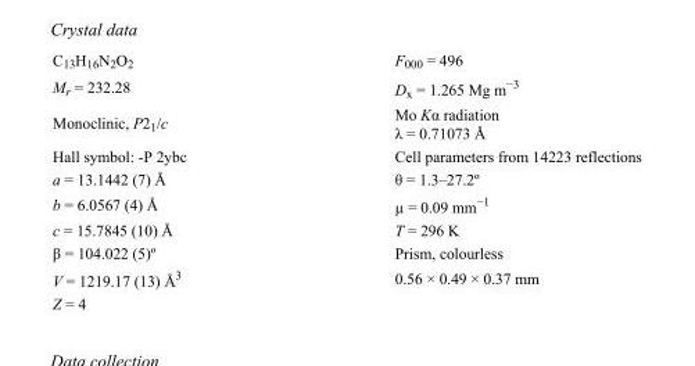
<table><tbody><tr><td>C<sub>13</sub>H<sub>16</sub>N<sub>2</sub>O<sub>2</sub></td><td>F<sub>000</sub> = 496</td></tr><tr><td>M<sub>r</sub> = 232.28</td><td>D<sub>x</sub> = 1.265 Mg m<sup>−3</sup></td></tr><tr><td>Monoclinic, P2<sub>1</sub>/c</td><td>Mo Kα radiation λ = 0.71073 Å</td></tr><tr><td>Hall symbol: -P 2ybc</td><td>Cell parameters from 14223 reflections</td></tr><tr><td>a = 13.1442 (7) Å</td><td>θ = 1.3–27.2º</td></tr><tr><td>b = 6.0567 (4) Å</td><td>µ = 0.09 mm<sup>−1</sup></td></tr><tr><td>c = 15.7845 (10) Å</td><td>T = 296 K</td></tr><tr><td>β = 104.022 (5)º</td><td>Prism, colourless</td></tr><tr><td>V = 1219.17 (13) Å<sup>3</sup></td><td>0.56 × 0.49 × 0.37 mm</td></tr><tr><td>Z = 4</td><td></td></tr></tbody></table>